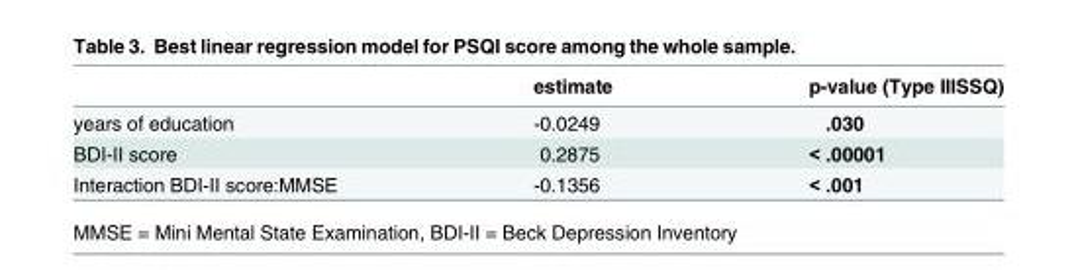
<table><thead><tr><td></td><td>estimate</td><td>p-value (Type IIISSQ)</td></tr></thead><tbody><tr><td>years of education</td><td>-0.0249</td><td>.030</td></tr><tr><td>BDI-II score</td><td>0.2875</td><td>&lt; .00001</td></tr><tr><td>Interaction BDI-II score:MMSE</td><td>-0.1356</td><td>&lt; .001</td></tr></tbody></table>